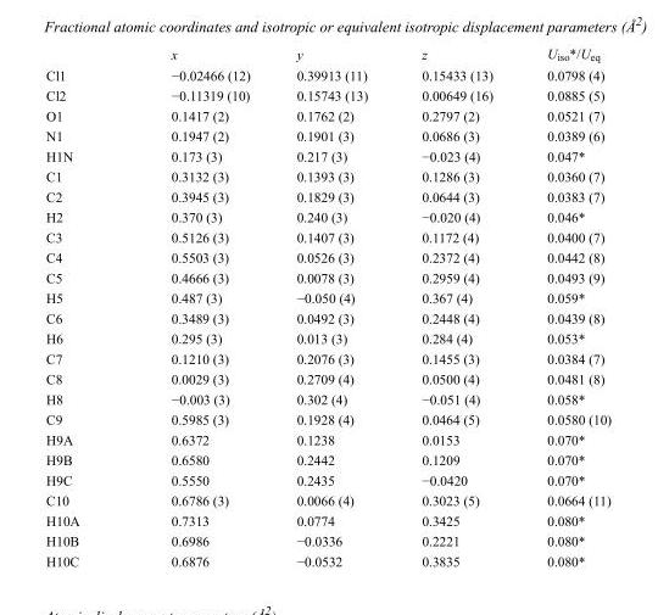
<table><thead><tr><td></td><td>x</td><td>y</td><td>z</td><td>U<sub>iso</sub>*/U<sub>eq</sub></td></tr></thead><tbody><tr><td>Cl1</td><td>−0.02466 (12)</td><td>0.39913 (11)</td><td>0.15433 (13)</td><td>0.0798 (4)</td></tr><tr><td>Cl2</td><td>−0.11319 (10)</td><td>0.15743 (13)</td><td>0.00649 (16)</td><td>0.0885 (5)</td></tr><tr><td>O1</td><td>0.1417 (2)</td><td>0.1762 (2)</td><td>0.2797 (2)</td><td>0.0521 (7)</td></tr><tr><td>N1</td><td>0.1947 (2)</td><td>0.1901 (3)</td><td>0.0686 (3)</td><td>0.0389 (6)</td></tr><tr><td>H1N</td><td>0.173 (3)</td><td>0.217 (3)</td><td>−0.023 (4)</td><td>0.047*</td></tr><tr><td>C1</td><td>0.3132 (3)</td><td>0.1393 (3)</td><td>0.1286 (3)</td><td>0.0360 (7)</td></tr><tr><td>C2</td><td>0.3945 (3)</td><td>0.1829 (3)</td><td>0.0644 (3)</td><td>0.0383 (7)</td></tr><tr><td>H2</td><td>0.370 (3)</td><td>0.240 (3)</td><td>−0.020 (4)</td><td>0.046*</td></tr><tr><td>C3</td><td>0.5126 (3)</td><td>0.1407 (3)</td><td>0.1172 (4)</td><td>0.0400 (7)</td></tr><tr><td>C4</td><td>0.5503 (3)</td><td>0.0526 (3)</td><td>0.2372 (4)</td><td>0.0442 (8)</td></tr><tr><td>C5</td><td>0.4666 (3)</td><td>0.0078 (3)</td><td>0.2959 (4)</td><td>0.0493 (9)</td></tr><tr><td>H5</td><td>0.487 (3)</td><td>−0.050 (4)</td><td>0.367 (4)</td><td>0.059*</td></tr><tr><td>C6</td><td>0.3489 (3)</td><td>0.0492 (3)</td><td>0.2448 (4)</td><td>0.0439 (8)</td></tr><tr><td>H6</td><td>0.295 (3)</td><td>0.013 (3)</td><td>0.284 (4)</td><td>0.053*</td></tr><tr><td>C7</td><td>0.1210 (3)</td><td>0.2076 (3)</td><td>0.1455 (3)</td><td>0.0384 (7)</td></tr><tr><td>C8</td><td>0.0029 (3)</td><td>0.2709 (4)</td><td>0.0500 (4)</td><td>0.0481 (8)</td></tr><tr><td>H8</td><td>−0.003 (3)</td><td>0.302 (4)</td><td>−0.051 (4)</td><td>0.058*</td></tr><tr><td>C9</td><td>0.5985 (3)</td><td>0.1928 (4)</td><td>0.0464 (5)</td><td>0.0580 (10)</td></tr><tr><td>H9A</td><td>0.6372</td><td>0.1238</td><td>0.0153</td><td>0.070*</td></tr><tr><td>H9B</td><td>0.6580</td><td>0.2442</td><td>0.1209</td><td>0.070*</td></tr><tr><td>H9C</td><td>0.5550</td><td>0.2435</td><td>−0.0420</td><td>0.070*</td></tr><tr><td>C10</td><td>0.6786 (3)</td><td>0.0066 (4)</td><td>0.3023 (5)</td><td>0.0664 (11)</td></tr><tr><td>H10A</td><td>0.7313</td><td>0.0774</td><td>0.3425</td><td>0.080*</td></tr><tr><td>H10B</td><td>0.6986</td><td>−0.0336</td><td>0.2221</td><td>0.080*</td></tr><tr><td>H10C</td><td>0.6876</td><td>−0.0532</td><td>0.3835</td><td>0.080*</td></tr></tbody></table>